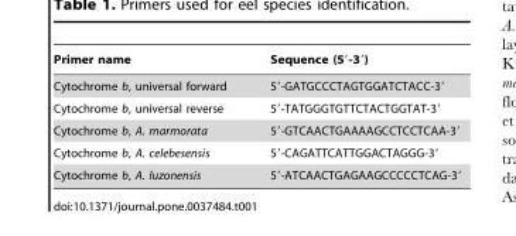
<table><thead><tr><td>Primer name</td><td>Sequence (5′-3′)</td></tr></thead><tbody><tr><td>Cytochrome b, universal forward</td><td>5′-GATGCCCTAGTGGATCTACC-3′</td></tr><tr><td>Cytochrome b, universal reverse</td><td>5′-TATGGGTGTTCTACTGGTAT-3′</td></tr><tr><td>Cytochrome b, A. marmorata</td><td>5′-GTCAACTGAAAAGCCTCCTCAA-3′</td></tr><tr><td>Cytochrome b, A. celebesensis</td><td>5′-CAGATTCATTGGACTAGGG-3′</td></tr><tr><td>Cytochrome b, A. luzonensis</td><td>5′-ATCAACTGAGAAGCCCCCTCAG-3′</td></tr></tbody></table>